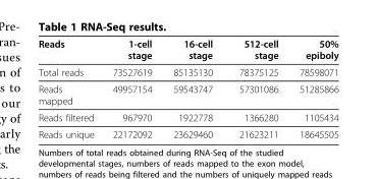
<table><thead><tr><td>Reads</td><td>1-cell stage</td><td>16-cell stage</td><td>512-cell stage</td><td>50% epiboly</td></tr></thead><tbody><tr><td>Total reads</td><td>73527619</td><td>85135130</td><td>78375125</td><td>78598071</td></tr><tr><td>Reads mapped</td><td>49957154</td><td>59543747</td><td>57301086</td><td>51285866</td></tr><tr><td>Reads filtered</td><td>967970</td><td>1922778</td><td>1366280</td><td>1105434</td></tr><tr><td>Reads unique</td><td>22172092</td><td>23629460</td><td>21623211</td><td>18645505</td></tr></tbody></table>